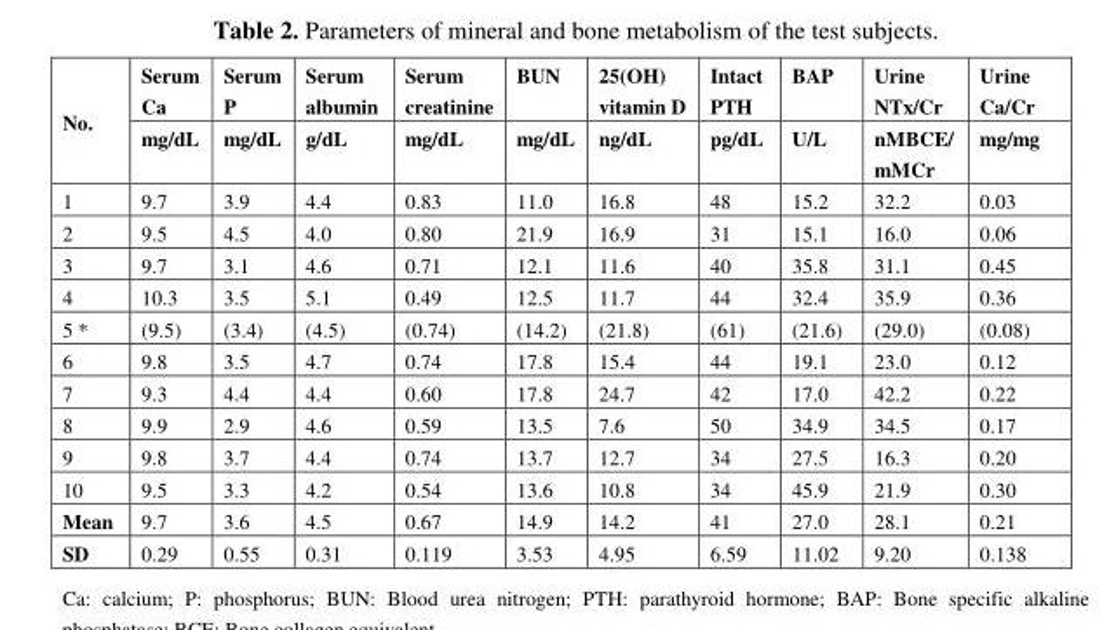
<table><thead><tr><td rowspan="2">No.</td><td rowspan="2">Serum Ca mg/dL</td><td rowspan="2">Serum P mg/dL</td><td rowspan="2">Serum albumin g/dL</td><td rowspan="2">Serum creatinine mg/dL</td><td rowspan="2">BUN mg/dL</td><td rowspan="2">25(OH) vitamin D ng/dL</td><td rowspan="2">Intact PTH pg/dL</td><td rowspan="2">BAP U/L</td><td rowspan="2">Urine NTx/Cr nMBCE/ mMCr</td><td rowspan="2">Urine Ca/Cr mg/mg</td></tr><tr></tr></thead><tbody><tr><td>1</td><td>9.7</td><td>3.9</td><td>4.4</td><td>0.83</td><td>11.0</td><td>16.8</td><td>48</td><td>15.2</td><td>32.2</td><td>0.03</td></tr><tr><td>2</td><td>9.5</td><td>4.5</td><td>4.0</td><td>0.80</td><td>21.9</td><td>16.9</td><td>31</td><td>15.1</td><td>16.0</td><td>0.06</td></tr><tr><td>3</td><td>9.7</td><td>3.1</td><td>4.6</td><td>0.71</td><td>12.1</td><td>11.6</td><td>40</td><td>35.8</td><td>31.1</td><td>0.45</td></tr><tr><td>4</td><td>10.3</td><td>3.5</td><td>5.1</td><td>0.49</td><td>12.5</td><td>11.7</td><td>44</td><td>32.4</td><td>35.9</td><td>0.36</td></tr><tr><td>5 *</td><td>(9.5)</td><td>(3.4)</td><td>(4.5)</td><td>(0.74)</td><td>(14.2)</td><td>(21.8)</td><td>(61)</td><td>(21.6)</td><td>(29.0)</td><td>(0.08)</td></tr><tr><td>6</td><td>9.8</td><td>3.5</td><td>4.7</td><td>0.74</td><td>17.8</td><td>15.4</td><td>44</td><td>19.1</td><td>23.0</td><td>0.12</td></tr><tr><td>7</td><td>9.3</td><td>4.4</td><td>4.4</td><td>0.60</td><td>17.8</td><td>24.7</td><td>42</td><td>17.0</td><td>42.2</td><td>0.22</td></tr><tr><td>8</td><td>9.9</td><td>2.9</td><td>4.6</td><td>0.59</td><td>13.5</td><td>7.6</td><td>50</td><td>34.9</td><td>34.5</td><td>0.17</td></tr><tr><td>9</td><td>9.8</td><td>3.7</td><td>4.4</td><td>0.74</td><td>13.7</td><td>12.7</td><td>34</td><td>27.5</td><td>16.3</td><td>0.20</td></tr><tr><td>10</td><td>9.5</td><td>3.3</td><td>4.2</td><td>0.54</td><td>13.6</td><td>10.8</td><td>34</td><td>45.9</td><td>21.9</td><td>0.30</td></tr><tr><td>Mean</td><td>9.7</td><td>3.6</td><td>4.5</td><td>0.67</td><td>14.9</td><td>14.2</td><td>41</td><td>27.0</td><td>28.1</td><td>0.21</td></tr><tr><td>SD</td><td>0.29</td><td>0.55</td><td>0.31</td><td>0.119</td><td>3.53</td><td>4.95</td><td>6.59</td><td>11.02</td><td>9.20</td><td>0.138</td></tr></tbody></table>